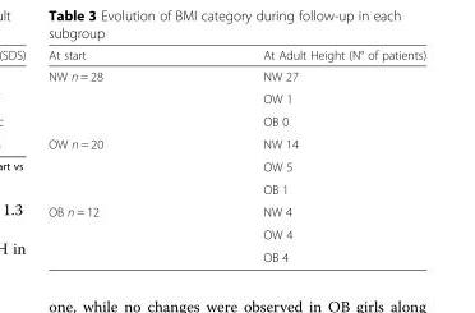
<table><thead><tr><td>At start</td><td>At Adult Height (N° of patients)</td></tr></thead><tbody><tr><td rowspan="3">NW n = 28</td><td>NW 27</td></tr><tr><td>OW 1</td></tr><tr><td>OB 0</td></tr><tr><td rowspan="3">OW n = 20</td><td>NW 14</td></tr><tr><td>OW 5</td></tr><tr><td>OB 1</td></tr><tr><td rowspan="3">OB n = 12</td><td>NW 4</td></tr><tr><td>OW 4</td></tr><tr><td>OB 4</td></tr></tbody></table>